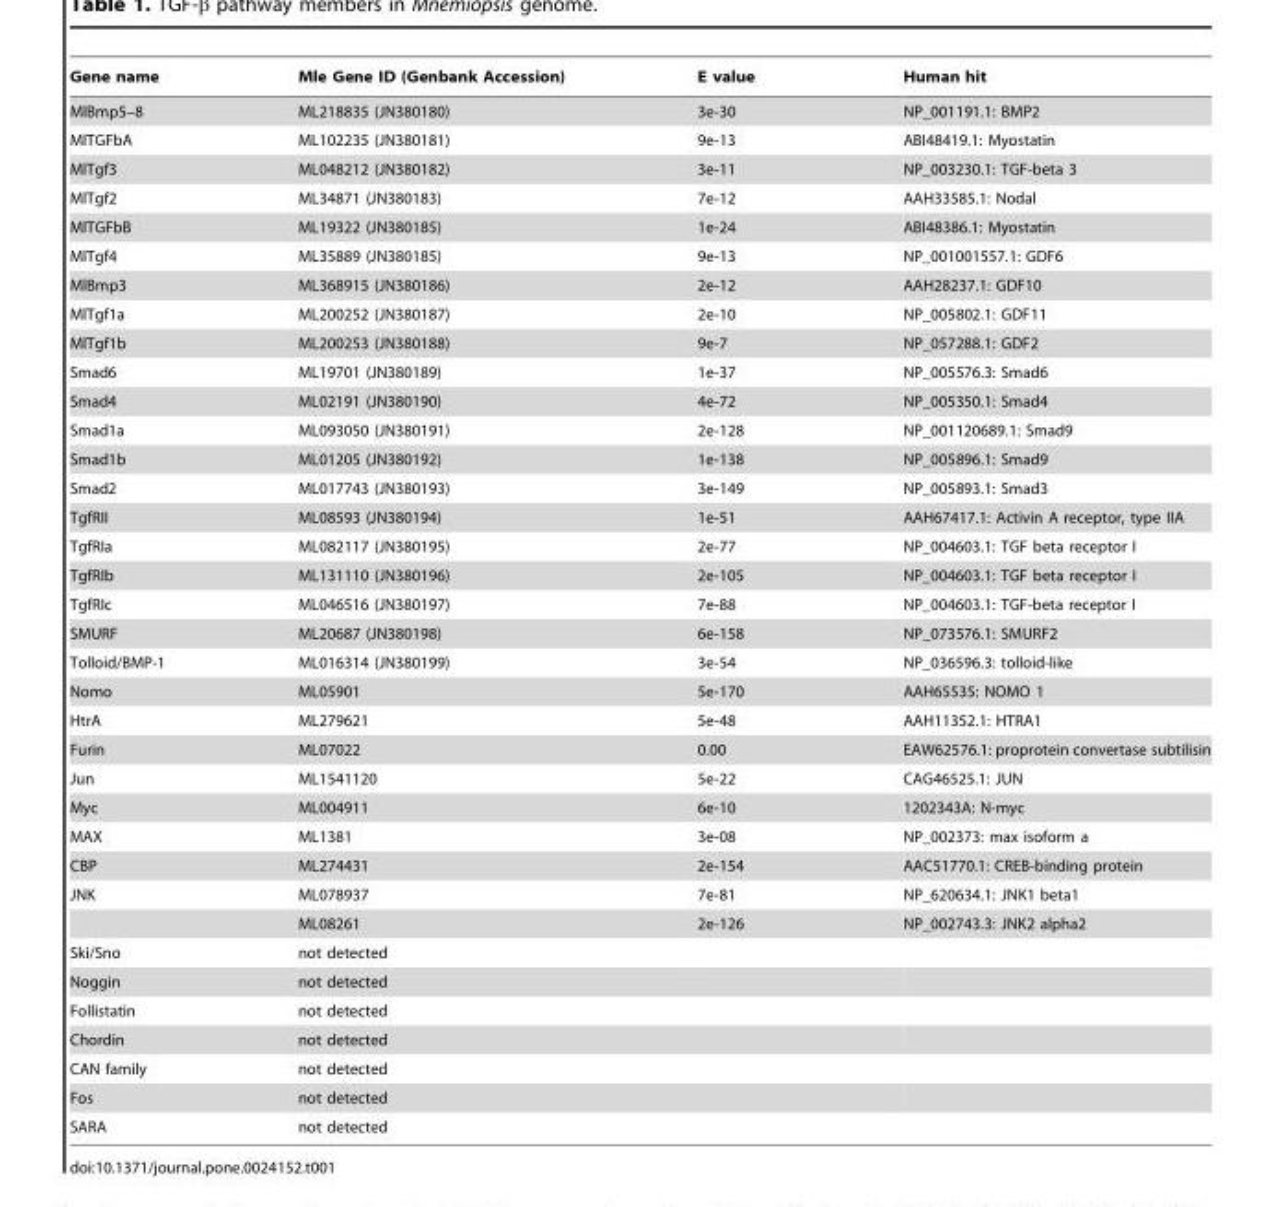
<table><thead><tr><td>Gene name</td><td>Mle Gene ID (Genbank Accession)</td><td>E value</td><td>Human hit</td></tr></thead><tbody><tr><td>MlBmp5–8</td><td>ML218835 (JN380180)</td><td>3e-30</td><td>NP_001191.1: BMP2</td></tr><tr><td>MlTGFbA</td><td>ML102235 (JN380181)</td><td>9e-13</td><td>ABI48419.1: Myostatin</td></tr><tr><td>MlTgf3</td><td>ML048212 (JN380182)</td><td>3e-11</td><td>NP_003230.1: TGF-beta 3</td></tr><tr><td>MlTgf2</td><td>ML34871 (JN380183)</td><td>7e-12</td><td>AAH33585.1: Nodal</td></tr><tr><td>MlTGFbB</td><td>ML19322 (JN380185)</td><td>1e-24</td><td>ABI48386.1: Myostatin</td></tr><tr><td>MlTgf4</td><td>ML35889 (JN380185)</td><td>9e-13</td><td>NP_001001557.1: GDF6</td></tr><tr><td>MlBmp3</td><td>ML368915 (JN380186)</td><td>2e-12</td><td>AAH28237.1: GDF10</td></tr><tr><td>MlTgf1a</td><td>ML200252 (JN380187)</td><td>2e-10</td><td>NP_005802.1: GDF11</td></tr><tr><td>MlTgf1b</td><td>ML200253 (JN380188)</td><td>9e-7</td><td>NP_057288.1: GDF2</td></tr><tr><td>Smad6</td><td>ML19701 (JN380189)</td><td>1e-37</td><td>NP_005576.3: Smad6</td></tr><tr><td>Smad4</td><td>ML02191 (JN380190)</td><td>4e-72</td><td>NP_005350.1: Smad4</td></tr><tr><td>Smad1a</td><td>ML093050 (JN380191)</td><td>2e-128</td><td>NP_001120689.1: Smad9</td></tr><tr><td>Smad1b</td><td>ML01205 (JN380192)</td><td>1e-138</td><td>NP_005896.1: Smad9</td></tr><tr><td>Smad2</td><td>ML017743 (JN380193)</td><td>3e-149</td><td>NP_005893.1: Smad3</td></tr><tr><td>TgfRII</td><td>ML08593 (JN380194)</td><td>1e-51</td><td>AAH67417.1: Activin A receptor, type IIA</td></tr><tr><td>TgfRIa</td><td>ML082117 (JN380195)</td><td>2e-77</td><td>NP_004603.1: TGF beta receptor I</td></tr><tr><td>TgfRIb</td><td>ML131110 (JN380196)</td><td>2e-105</td><td>NP_004603.1: TGF beta receptor I</td></tr><tr><td>TgfRIc</td><td>ML046516 (JN380197)</td><td>7e-88</td><td>NP_004603.1: TGF-beta receptor I</td></tr><tr><td>SMURF</td><td>ML20687 (JN380198)</td><td>6e-158</td><td>NP_073576.1: SMURF2</td></tr><tr><td>Tolloid/BMP-1</td><td>ML016314 (JN380199)</td><td>3e-54</td><td>NP_036596.3: tolloid-like</td></tr><tr><td>Nomo</td><td>ML05901</td><td>5e-170</td><td>AAH65535: NOMO 1</td></tr><tr><td>HtrA</td><td>ML279621</td><td>5e-48</td><td>AAH11352.1: HTRA1</td></tr><tr><td>Furin</td><td>ML07022</td><td>0.00</td><td>EAW62576.1: proprotein convertase subtilisin</td></tr><tr><td>Jun</td><td>ML1541120</td><td>5e-22</td><td>CAG46525.1: JUN</td></tr><tr><td>Myc</td><td>ML004911</td><td>6e-10</td><td>1202343A: N-myc</td></tr><tr><td>MAX</td><td>ML1381</td><td>3e-08</td><td>NP_002373: max isoform a</td></tr><tr><td>CBP</td><td>ML274431</td><td>2e-154</td><td>AAC51770.1: CREB-binding protein</td></tr><tr><td rowspan="2">JNK</td><td>ML078937</td><td>7e-81</td><td>NP_620634.1: JNK1 beta1</td></tr><tr><td>ML08261</td><td>2e-126</td><td>NP_002743.3: JNK2 alpha2</td></tr><tr><td>Ski/Sno</td><td>not detected</td><td></td><td></td></tr><tr><td>Noggin</td><td>not detected</td><td></td><td></td></tr><tr><td>Follistatin</td><td>not detected</td><td></td><td></td></tr><tr><td>Chordin</td><td>not detected</td><td></td><td></td></tr><tr><td>CAN family</td><td>not detected</td><td></td><td></td></tr><tr><td>Fos</td><td>not detected</td><td></td><td></td></tr><tr><td>SARA</td><td>not detected</td><td></td><td></td></tr></tbody></table>